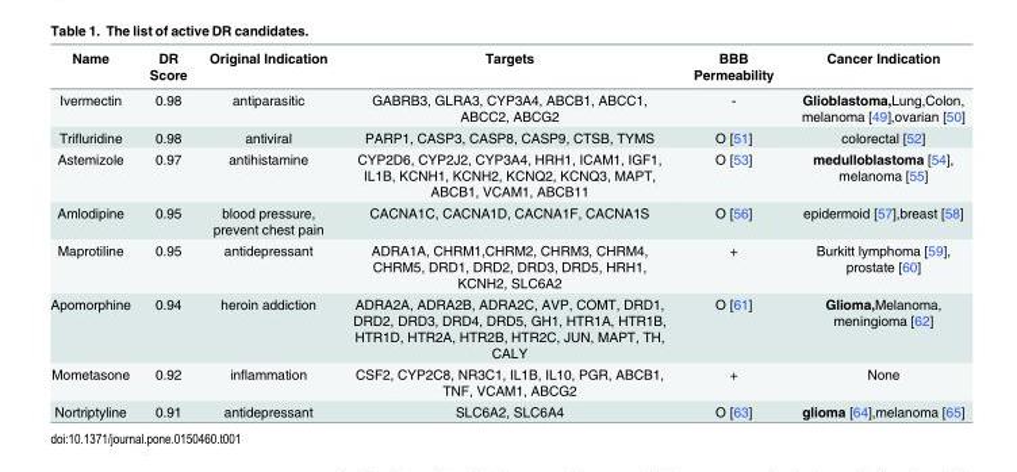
<table><thead><tr><td>Name</td><td>DR Score</td><td>Original Indication</td><td>Targets</td><td>BBB Permeability</td><td>Cancer Indication</td></tr></thead><tbody><tr><td>Ivermectin</td><td>0.98</td><td>antiparasitic</td><td>GABRB3, GLRA3, CYP3A4, ABCB1, ABCC1, ABCC2, ABCG2</td><td>-</td><td>Glioblastoma,Lung,Colon, melanoma [49],ovarian [50]</td></tr><tr><td>Trifluridine</td><td>0.98</td><td>antiviral</td><td>PARP1, CASP3, CASP8, CASP9, CTSB, TYMS</td><td>O [51]</td><td>colorectal [52]</td></tr><tr><td>Astemizole</td><td>0.97</td><td>antihistamine</td><td>CYP2D6, CYP2J2, CYP3A4, HRH1, ICAM1, IGF1, IL1B, KCNH1, KCNH2, KCNQ2, KCNQ3, MAPT, ABCB1, VCAM1, ABCB11</td><td>O [53]</td><td>medulloblastoma [54], melanoma [55]</td></tr><tr><td>Amlodipine</td><td>0.95</td><td>blood pressure, prevent chest pain</td><td>CACNA1C, CACNA1D, CACNA1F, CACNA1S</td><td>O [56]</td><td>epidermoid [57],breast [58]</td></tr><tr><td>Maprotiline</td><td>0.95</td><td>antidepressant</td><td>ADRA1A, CHRM1,CHRM2, CHRM3, CHRM4, CHRM5, DRD1, DRD2, DRD3, DRD5, HRH1, KCNH2, SLC6A2</td><td>+</td><td>Burkitt lymphoma [59], prostate [60]</td></tr><tr><td>Apomorphine</td><td>0.94</td><td>heroin addiction</td><td>ADRA2A, ADRA2B, ADRA2C, AVP, COMT, DRD1, DRD2, DRD3, DRD4, DRD5, GH1, HTR1A, HTR1B, HTR1D, HTR2A, HTR2B, HTR2C, JUN, MAPT, TH, CALY</td><td>O [61]</td><td>Glioma,Melanoma, meningioma [62]</td></tr><tr><td>Mometasone</td><td>0.92</td><td>inflammation</td><td>CSF2, CYP2C8, NR3C1, IL1B, IL10, PGR, ABCB1, TNF, VCAM1, ABCG2</td><td>+</td><td>None</td></tr><tr><td>Nortriptyline</td><td>0.91</td><td>antidepressant</td><td>SLC6A2, SLC6A4</td><td>O [63]</td><td>glioma [64],melanoma [65]</td></tr></tbody></table>